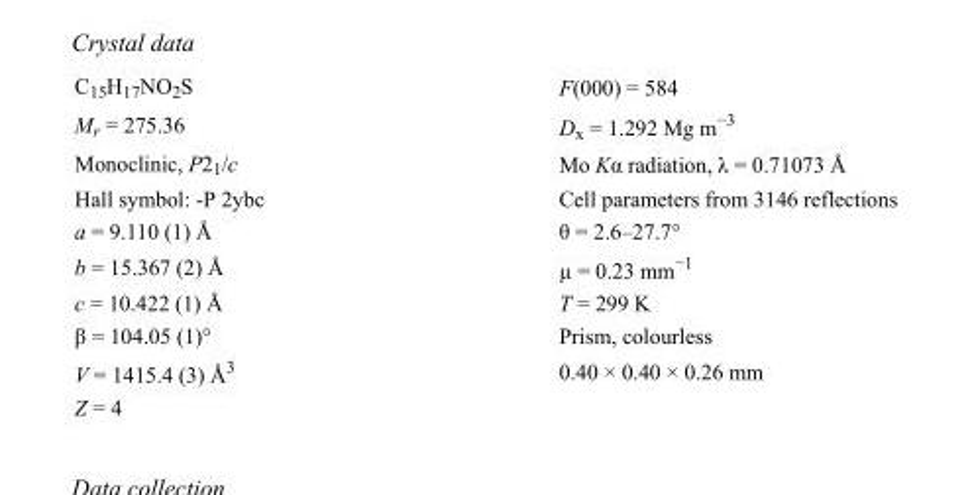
<table><tbody><tr><td>C<sub>15</sub>H<sub>17</sub>NO<sub>2</sub>S</td><td>F(000) = 584</td></tr><tr><td>M<sub>r</sub> = 275.36</td><td>D<sub>x</sub> = 1.292 Mg m<sup>−3</sup></td></tr><tr><td>Monoclinic, P2<sub>1</sub>/c</td><td>Mo Kα radiation, λ = 0.71073 Å</td></tr><tr><td>Hall symbol: -P 2ybc</td><td>Cell parameters from 3146 reflections</td></tr><tr><td>a = 9.110 (1) Å</td><td>θ = 2.6–27.7°</td></tr><tr><td>b = 15.367 (2) Å</td><td>µ = 0.23 mm<sup>−1</sup></td></tr><tr><td>c = 10.422 (1) Å</td><td>T = 299 K</td></tr><tr><td>β = 104.05 (1)°</td><td>Prism, colourless</td></tr><tr><td>V = 1415.4 (3) Å<sup>3</sup></td><td>0.40 × 0.40 × 0.26 mm</td></tr><tr><td>Z = 4</td><td></td></tr></tbody></table>